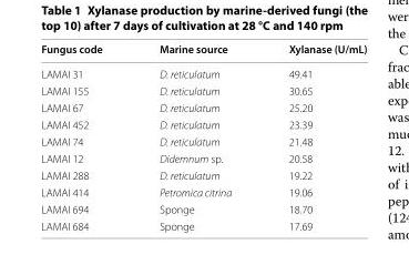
<table><thead><tr><td>Fungus code</td><td>Marine source</td><td>Xylanase (U/mL)</td></tr></thead><tbody><tr><td>LAMAI 31</td><td>D. reticulatum</td><td>49.41</td></tr><tr><td>LAMAI 155</td><td>D. reticulatum</td><td>30.65</td></tr><tr><td>LAMAI 67</td><td>D. reticulatum</td><td>25.20</td></tr><tr><td>LAMAI 452</td><td>D. reticulatum</td><td>23.39</td></tr><tr><td>LAMAI 74</td><td>D. reticulatum</td><td>21.48</td></tr><tr><td>LAMAI 12</td><td>Didemnum sp.</td><td>20.58</td></tr><tr><td>LAMAI 288</td><td>D. reticulatum</td><td>19.22</td></tr><tr><td>LAMAI 414</td><td>Petromica citrina</td><td>19.06</td></tr><tr><td>LAMAI 694</td><td>Sponge</td><td>18.70</td></tr><tr><td>LAMAI 684</td><td>Sponge</td><td>17.69</td></tr></tbody></table>